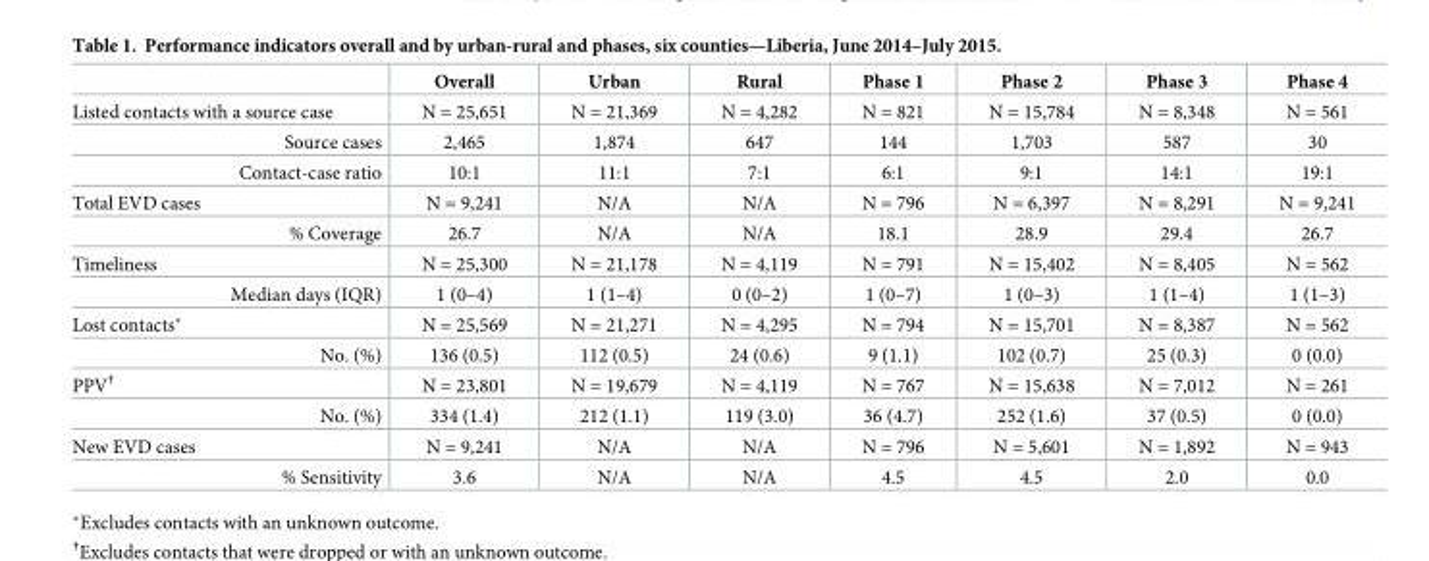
<table><thead><tr><td></td><td>Overall</td><td>Urban</td><td>Rural</td><td>Phase 1</td><td>Phase 2</td><td>Phase 3</td><td>Phase 4</td></tr></thead><tbody><tr><td>Listed contacts with a source case</td><td>N = 25,651</td><td>N = 21,369</td><td>N = 4,282</td><td>N = 821</td><td>N = 15,784</td><td>N = 8,348</td><td>N = 561</td></tr><tr><td>Source cases</td><td>2,465</td><td>1,874</td><td>647</td><td>144</td><td>1,703</td><td>587</td><td>30</td></tr><tr><td>Contact-case ratio</td><td>10:1</td><td>11:1</td><td>7:1</td><td>6:1</td><td>9:1</td><td>14:1</td><td>19:1</td></tr><tr><td>Total EVD cases</td><td>N = 9,241</td><td>N/A</td><td>N/A</td><td>N = 796</td><td>N = 6,397</td><td>N = 8,291</td><td>N = 9,241</td></tr><tr><td>% Coverage</td><td>26.7</td><td>N/A</td><td>N/A</td><td>18.1</td><td>28.9</td><td>29.4</td><td>26.7</td></tr><tr><td>Timeliness</td><td>N = 25,300</td><td>N = 21,178</td><td>N = 4,119</td><td>N = 791</td><td>N = 15,402</td><td>N = 8,405</td><td>N = 562</td></tr><tr><td>Median days (IQR)</td><td>1 (0–4)</td><td>1 (1–4)</td><td>0 (0–2)</td><td>1 (0–7)</td><td>1 (0–3)</td><td>1 (1–4)</td><td>1 (1–3)</td></tr><tr><td>Lost contacts*</td><td>N = 25,569</td><td>N = 21,271</td><td>N = 4,295</td><td>N = 794</td><td>N = 15,701</td><td>N = 8,387</td><td>N = 562</td></tr><tr><td>No. (%)</td><td>136 (0.5)</td><td>112 (0.5)</td><td>24 (0.6)</td><td>9 (1.1)</td><td>102 (0.7)</td><td>25 (0.3)</td><td>0 (0.0)</td></tr><tr><td>PPV<sup>†</sup></td><td>N = 23,801</td><td>N = 19,679</td><td>N = 4,119</td><td>N = 767</td><td>N = 15,638</td><td>N = 7,012</td><td>N = 261</td></tr><tr><td>No. (%)</td><td>334 (1.4)</td><td>212 (1.1)</td><td>119 (3.0)</td><td>36 (4.7)</td><td>252 (1.6)</td><td>37 (0.5)</td><td>0 (0.0)</td></tr><tr><td>New EVD cases</td><td>N = 9,241</td><td>N/A</td><td>N/A</td><td>N = 796</td><td>N = 5,601</td><td>N = 1,892</td><td>N = 943</td></tr><tr><td>% Sensitivity</td><td>3.6</td><td>N/A</td><td>N/A</td><td>4.5</td><td>4.5</td><td>2.0</td><td>0.0</td></tr></tbody></table>